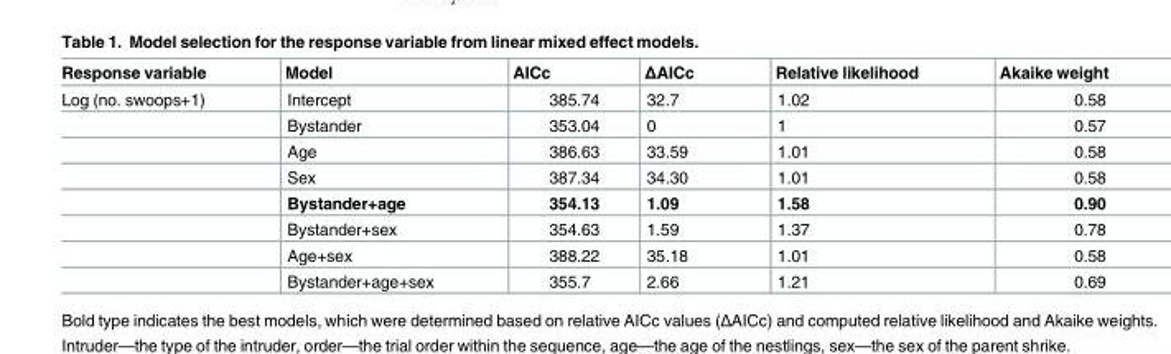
<table><thead><tr><td>Response variable</td><td>Model</td><td>AICc</td><td>ΔAICc</td><td>Relative likelihood</td><td>Akaike weight</td></tr></thead><tbody><tr><td rowspan="8">Log (no. swoops+1)</td><td>Intercept</td><td>385.74</td><td>32.7</td><td>1.02</td><td>0.58</td></tr><tr><td>Bystander</td><td>353.04</td><td>0</td><td>1</td><td>0.57</td></tr><tr><td>Age</td><td>386.63</td><td>33.59</td><td>1.01</td><td>0.58</td></tr><tr><td>Sex</td><td>387.34</td><td>34.30</td><td>1.01</td><td>0.58</td></tr><tr><td>Bystander+age</td><td>354.13</td><td>1.09</td><td>1.58</td><td>0.90</td></tr><tr><td>Bystander+sex</td><td>354.63</td><td>1.59</td><td>1.37</td><td>0.78</td></tr><tr><td>Age+sex</td><td>388.22</td><td>35.18</td><td>1.01</td><td>0.58</td></tr><tr><td>Bystander+age+sex</td><td>355.7</td><td>2.66</td><td>1.21</td><td>0.69</td></tr></tbody></table>